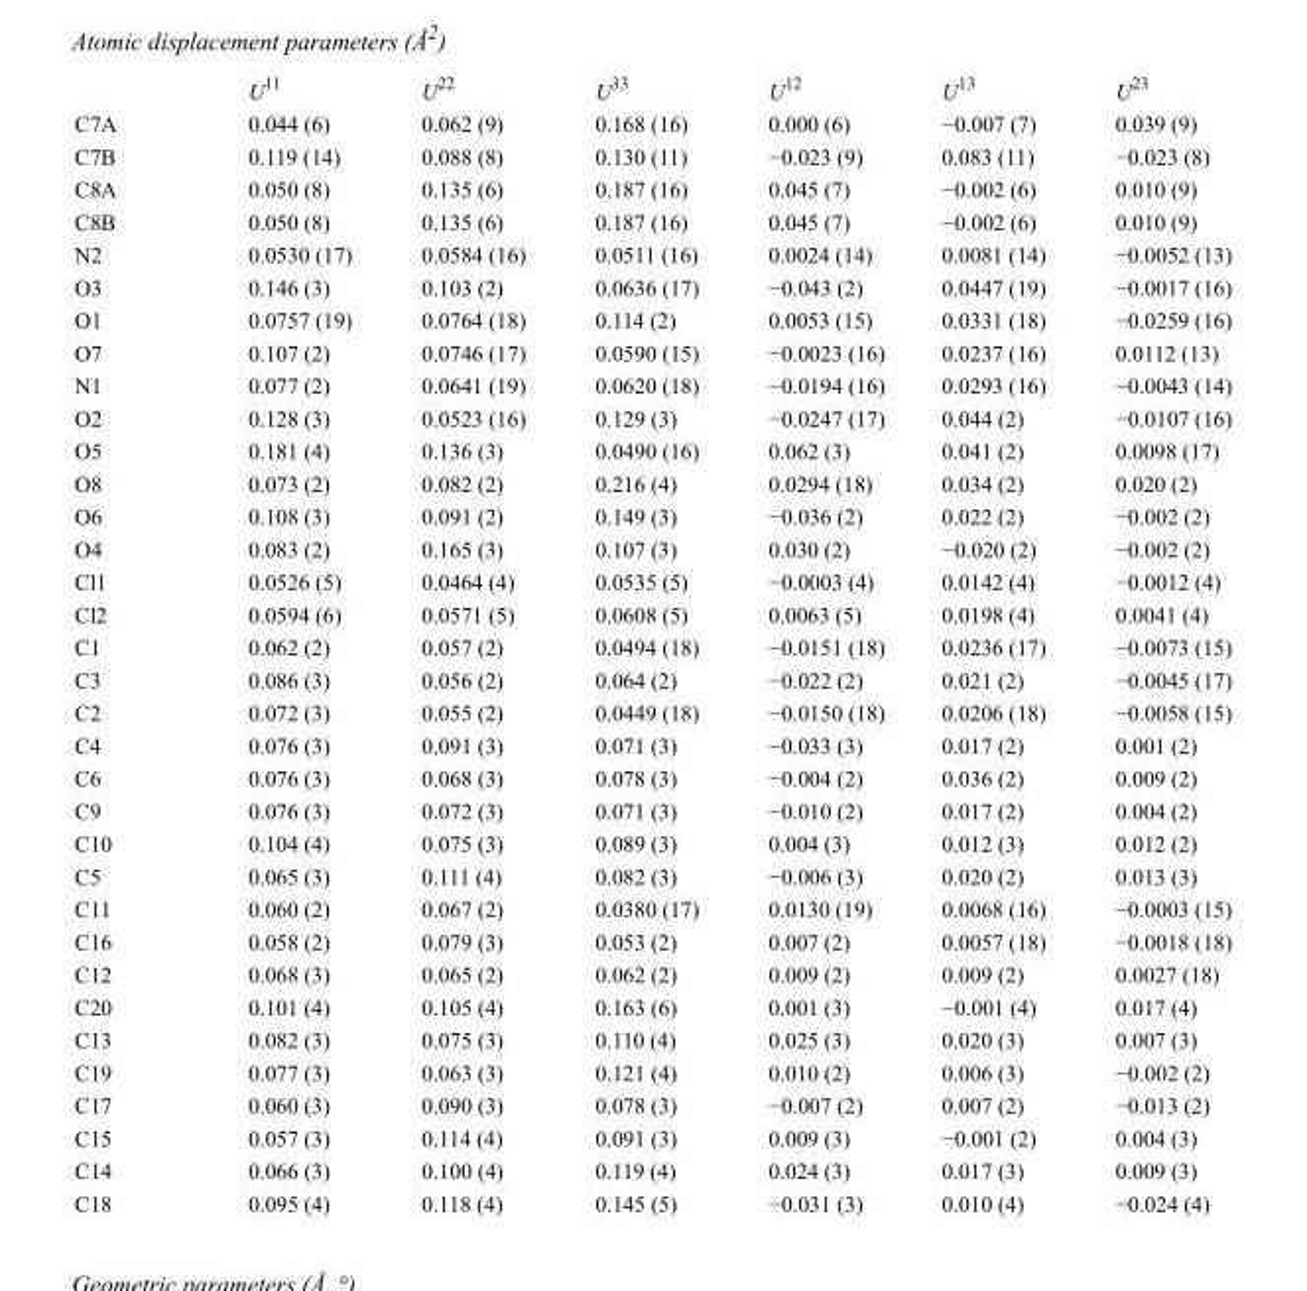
<table><thead><tr><td></td><td>U<sup>11</sup></td><td>U<sup>22</sup></td><td>U<sup>33</sup></td><td>U<sup>12</sup></td><td>U<sup>13</sup></td><td>U<sup>23</sup></td></tr></thead><tbody><tr><td>C7A</td><td>0.044 (6)</td><td>0.062 (9)</td><td>0.168 (16)</td><td>0.000 (6)</td><td>−0.007 (7)</td><td>0.039 (9)</td></tr><tr><td>C7B</td><td>0.119 (14)</td><td>0.088 (8)</td><td>0.130 (11)</td><td>−0.023 (9)</td><td>0.083 (11)</td><td>−0.023 (8)</td></tr><tr><td>C8A</td><td>0.050 (8)</td><td>0.135 (6)</td><td>0.187 (16)</td><td>0.045 (7)</td><td>−0.002 (6)</td><td>0.010 (9)</td></tr><tr><td>C8B</td><td>0.050 (8)</td><td>0.135 (6)</td><td>0.187 (16)</td><td>0.045 (7)</td><td>−0.002 (6)</td><td>0.010 (9)</td></tr><tr><td>N2</td><td>0.0530 (17)</td><td>0.0584 (16)</td><td>0.0511 (16)</td><td>0.0024 (14)</td><td>0.0081 (14)</td><td>−0.0052 (13)</td></tr><tr><td>O3</td><td>0.146 (3)</td><td>0.103 (2)</td><td>0.0636 (17)</td><td>−0.043 (2)</td><td>0.0447 (19)</td><td>−0.0017 (16)</td></tr><tr><td>O1</td><td>0.0757 (19)</td><td>0.0764 (18)</td><td>0.114 (2)</td><td>0.0053 (15)</td><td>0.0331 (18)</td><td>−0.0259 (16)</td></tr><tr><td>O7</td><td>0.107 (2)</td><td>0.0746 (17)</td><td>0.0590 (15)</td><td>−0.0023 (16)</td><td>0.0237 (16)</td><td>0.0112 (13)</td></tr><tr><td>N1</td><td>0.077 (2)</td><td>0.0641 (19)</td><td>0.0620 (18)</td><td>−0.0194 (16)</td><td>0.0293 (16)</td><td>−0.0043 (14)</td></tr><tr><td>O2</td><td>0.128 (3)</td><td>0.0523 (16)</td><td>0.129 (3)</td><td>−0.0247 (17)</td><td>0.044 (2)</td><td>−0.0107 (16)</td></tr><tr><td>O5</td><td>0.181 (4)</td><td>0.136 (3)</td><td>0.0490 (16)</td><td>0.062 (3)</td><td>0.041 (2)</td><td>0.0098 (17)</td></tr><tr><td>O8</td><td>0.073 (2)</td><td>0.082 (2)</td><td>0.216 (4)</td><td>0.0294 (18)</td><td>0.034 (2)</td><td>0.020 (2)</td></tr><tr><td>O6</td><td>0.108 (3)</td><td>0.091 (2)</td><td>0.149 (3)</td><td>−0.036 (2)</td><td>0.022 (2)</td><td>−0.002 (2)</td></tr><tr><td>O4</td><td>0.083 (2)</td><td>0.165 (3)</td><td>0.107 (3)</td><td>0.030 (2)</td><td>−0.020 (2)</td><td>−0.002 (2)</td></tr><tr><td>Cl1</td><td>0.0526 (5)</td><td>0.0464 (4)</td><td>0.0535 (5)</td><td>−0.0003 (4)</td><td>0.0142 (4)</td><td>−0.0012 (4)</td></tr><tr><td>Cl2</td><td>0.0594 (6)</td><td>0.0571 (5)</td><td>0.0608 (5)</td><td>0.0063 (5)</td><td>0.0198 (4)</td><td>0.0041 (4)</td></tr><tr><td>C1</td><td>0.062 (2)</td><td>0.057 (2)</td><td>0.0494 (18)</td><td>−0.0151 (18)</td><td>0.0236 (17)</td><td>−0.0073 (15)</td></tr><tr><td>C3</td><td>0.086 (3)</td><td>0.056 (2)</td><td>0.064 (2)</td><td>−0.022 (2)</td><td>0.021 (2)</td><td>−0.0045 (17)</td></tr><tr><td>C2</td><td>0.072 (3)</td><td>0.055 (2)</td><td>0.0449 (18)</td><td>−0.0150 (18)</td><td>0.0206 (18)</td><td>−0.0058 (15)</td></tr><tr><td>C4</td><td>0.076 (3)</td><td>0.091 (3)</td><td>0.071 (3)</td><td>−0.033 (3)</td><td>0.017 (2)</td><td>0.001 (2)</td></tr><tr><td>C6</td><td>0.076 (3)</td><td>0.068 (3)</td><td>0.078 (3)</td><td>−0.004 (2)</td><td>0.036 (2)</td><td>0.009 (2)</td></tr><tr><td>C9</td><td>0.076 (3)</td><td>0.072 (3)</td><td>0.071 (3)</td><td>−0.010 (2)</td><td>0.017 (2)</td><td>0.004 (2)</td></tr><tr><td>C10</td><td>0.104 (4)</td><td>0.075 (3)</td><td>0.089 (3)</td><td>0.004 (3)</td><td>0.012 (3)</td><td>0.012 (2)</td></tr><tr><td>C5</td><td>0.065 (3)</td><td>0.111 (4)</td><td>0.082 (3)</td><td>−0.006 (3)</td><td>0.020 (2)</td><td>0.013 (3)</td></tr><tr><td>C11</td><td>0.060 (2)</td><td>0.067 (2)</td><td>0.0380 (17)</td><td>0.0130 (19)</td><td>0.0068 (16)</td><td>−0.0003 (15)</td></tr><tr><td>C16</td><td>0.058 (2)</td><td>0.079 (3)</td><td>0.053 (2)</td><td>0.007 (2)</td><td>0.0057 (18)</td><td>−0.0018 (18)</td></tr><tr><td>C12</td><td>0.068 (3)</td><td>0.065 (2)</td><td>0.062 (2)</td><td>0.009 (2)</td><td>0.009 (2)</td><td>0.0027 (18)</td></tr><tr><td>C20</td><td>0.101 (4)</td><td>0.105 (4)</td><td>0.163 (6)</td><td>0.001 (3)</td><td>−0.001 (4)</td><td>0.017 (4)</td></tr><tr><td>C13</td><td>0.082 (3)</td><td>0.075 (3)</td><td>0.110 (4)</td><td>0.025 (3)</td><td>0.020 (3)</td><td>0.007 (3)</td></tr><tr><td>C19</td><td>0.077 (3)</td><td>0.063 (3)</td><td>0.121 (4)</td><td>0.010 (2)</td><td>0.006 (3)</td><td>−0.002 (2)</td></tr><tr><td>C17</td><td>0.060 (3)</td><td>0.090 (3)</td><td>0.078 (3)</td><td>−0.007 (2)</td><td>0.007 (2)</td><td>−0.013 (2)</td></tr><tr><td>C15</td><td>0.057 (3)</td><td>0.114 (4)</td><td>0.091 (3)</td><td>0.009 (3)</td><td>−0.001 (2)</td><td>0.004 (3)</td></tr><tr><td>C14</td><td>0.066 (3)</td><td>0.100 (4)</td><td>0.119 (4)</td><td>0.024 (3)</td><td>0.017 (3)</td><td>0.009 (3)</td></tr><tr><td>C18</td><td>0.095 (4)</td><td>0.118 (4)</td><td>0.145 (5)</td><td>−0.031 (3)</td><td>0.010 (4)</td><td>−0.024 (4)</td></tr></tbody></table>